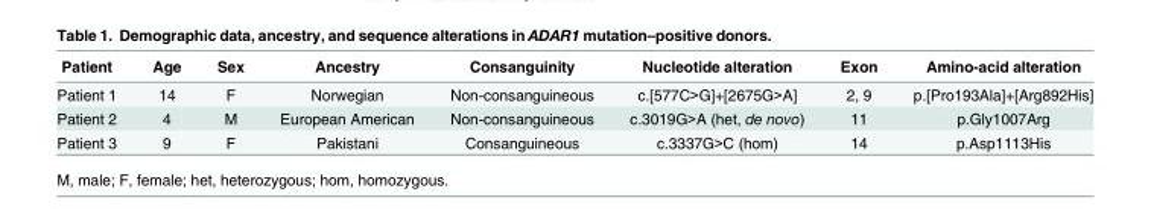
<table><thead><tr><td>Patient</td><td>Age</td><td>Sex</td><td>Ancestry</td><td>Consanguinity</td><td>Nucleotide alteration</td><td>Exon</td><td>Amino-acid alteration</td></tr></thead><tbody><tr><td>Patient 1</td><td>14</td><td>F</td><td>Norwegian</td><td>Non-consanguineous</td><td>c.[577C&gt;G]+[2675G&gt;A]</td><td>2, 9</td><td>p.[Pro193Ala]+[Arg892His]</td></tr><tr><td>Patient 2</td><td>4</td><td>M</td><td>European American</td><td>Non-consanguineous</td><td>c.3019G&gt;A (het, de novo)</td><td>11</td><td>p.Gly1007Arg</td></tr><tr><td>Patient 3</td><td>9</td><td>F</td><td>Pakistani</td><td>Consanguineous</td><td>c.3337G&gt;C (hom)</td><td>14</td><td>p.Asp1113His</td></tr></tbody></table>